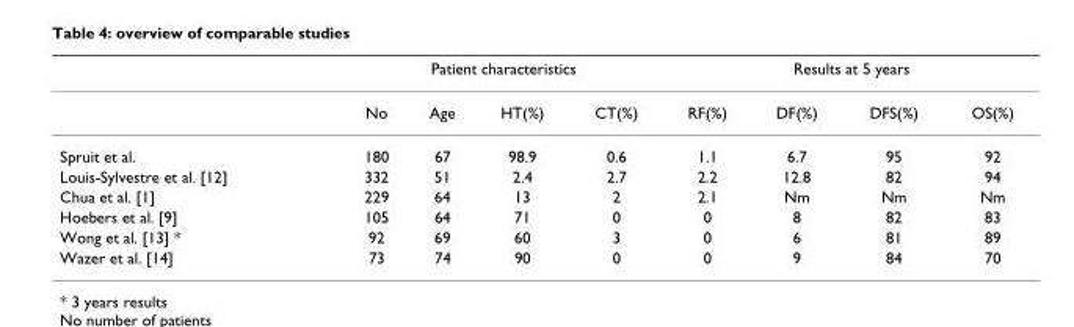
<table><thead><tr><td rowspan="2"></td><td colspan="4">Patient characteristics</td><td colspan="4">Results at 5 years</td></tr><tr><td>No</td><td>Age</td><td>HT(%)</td><td>CT(%)</td><td>RF(%)</td><td>DF(%)</td><td>DFS(%)</td><td>OS(%)</td></tr></thead><tbody><tr><td>Spruit et al.</td><td>180</td><td>67</td><td>98.9</td><td>0.6</td><td>1.1</td><td>6.7</td><td>95</td><td>92</td></tr><tr><td>Louis-Sylvestre et al. [12]</td><td>332</td><td>51</td><td>2.4</td><td>2.7</td><td>2.2</td><td>12.8</td><td>82</td><td>94</td></tr><tr><td>Chua et al. [1]</td><td>229</td><td>64</td><td>13</td><td>2</td><td>2.1</td><td>Nm</td><td>Nm</td><td>Nm</td></tr><tr><td>Hoebers et al. [9]</td><td>105</td><td>64</td><td>71</td><td>0</td><td>0</td><td>8</td><td>82</td><td>83</td></tr><tr><td>Wong et al. [13] *</td><td>92</td><td>69</td><td>60</td><td>3</td><td>0</td><td>6</td><td>81</td><td>89</td></tr><tr><td>Wazer et al. [14]</td><td>73</td><td>74</td><td>90</td><td>0</td><td>0</td><td>9</td><td>84</td><td>70</td></tr></tbody></table>